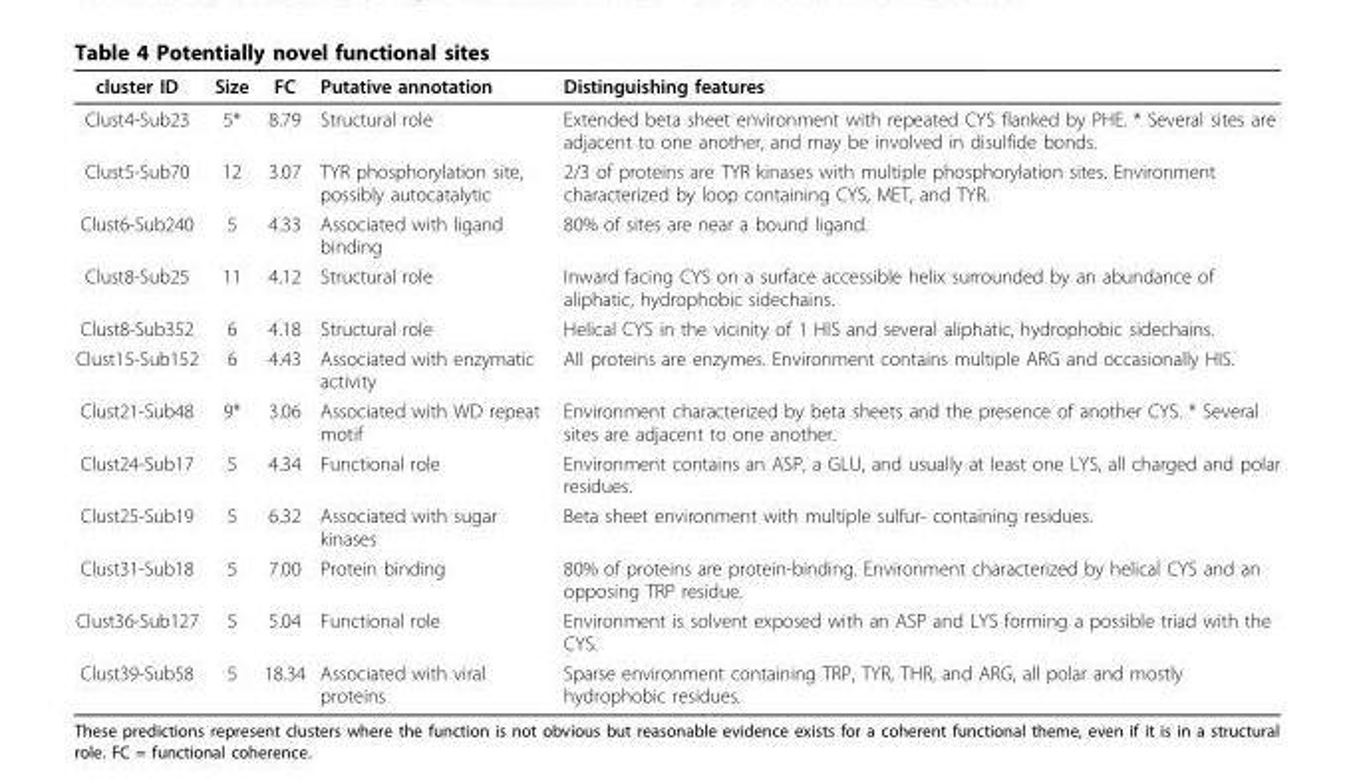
<table><thead><tr><td>cluster ID</td><td>Size</td><td>FC</td><td>Putative annotation</td><td>Distinguishing features</td></tr></thead><tbody><tr><td>Clust4-Sub23</td><td>5*</td><td>8.79</td><td>Structural role</td><td>Extended beta sheet environment with repeated CYS flanked by PHE. * Several sites are adjacent to one another, and may be involved in disulfide bonds.</td></tr><tr><td>Clust5-Sub70</td><td>12</td><td>3.07</td><td>TYR phosphorylation site, possibly autocatalytic</td><td>2/3 of proteins are TYR kinases with multiple phosphorylation sites. Environment characterized by loop containing CYS, MET, and TYR.</td></tr><tr><td>Clust6-Sub240</td><td>5</td><td>4.33</td><td>Associated with ligand binding</td><td>80% of sites are near a bound ligand.</td></tr><tr><td>Clust8-Sub25</td><td>11</td><td>4.12</td><td>Structural role</td><td>Inward facing CYS on a surface accessible helix surrounded by an abundance of aliphatic, hydrophobic sidechains.</td></tr><tr><td>Clust8-Sub352</td><td>6</td><td>4.18</td><td>Structural role</td><td>Helical CYS in the vicinity of 1 HIS and several aliphatic, hydrophobic sidechains.</td></tr><tr><td>Clust15-Sub152</td><td>6</td><td>4.43</td><td>Associated with enzymatic activity</td><td>All proteins are enzymes. Environment contains multiple ARG and occasionally HIS.</td></tr><tr><td>Clust21-Sub48</td><td>9*</td><td>3.06</td><td>Associated with WD repeat motif</td><td>Environment characterized by beta sheets and the presence of another CYS. * Several sites are adjacent to one another.</td></tr><tr><td>Clust24-Sub17</td><td>5</td><td>4.34</td><td>Functional role</td><td>Environment contains an ASP, a GLU, and usually at least one LYS, all charged and polar residues.</td></tr><tr><td>Clust25-Sub19</td><td>5</td><td>6.32</td><td>Associated with sugar kinases</td><td>Beta sheet environment with multiple sulfur- containing residues.</td></tr><tr><td>Clust31-Sub18</td><td>5</td><td>7.00</td><td>Protein binding</td><td>80% of proteins are protein-binding. Environment characterized by helical CYS and an opposing TRP residue.</td></tr><tr><td>Clust36-Sub127</td><td>5</td><td>5.04</td><td>Functional role</td><td>Environment is solvent exposed with an ASP and LYS forming a possible triad with the CYS.</td></tr><tr><td>Clust39-Sub58</td><td>5</td><td>18.34</td><td>Associated with viral proteins</td><td>Sparse environment containing TRP, TYR, THR, and ARG, all polar and mostly hydrophobic residues.</td></tr></tbody></table>